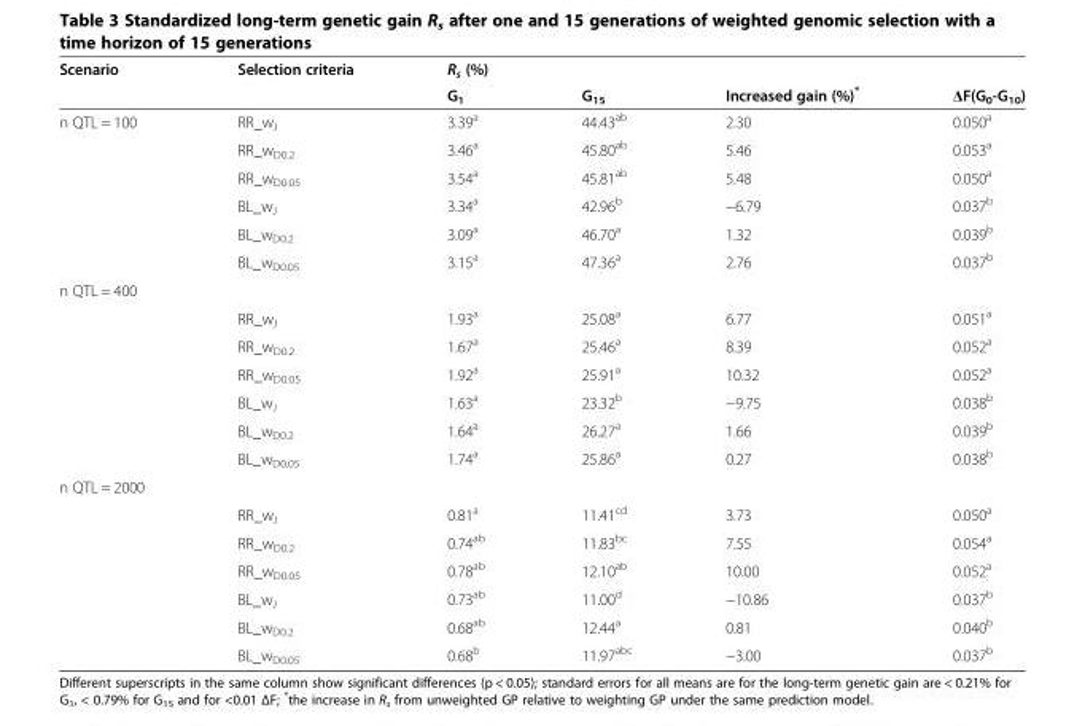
<table><thead><tr><td rowspan="2">Scenario</td><td rowspan="2">Selection criteria</td><td rowspan="2">R<sub>s</sub> (%) G<sub>1</sub></td><td rowspan="2">G<sub>15</sub></td><td rowspan="2">Increased gain (%)*</td><td rowspan="2">ΔF(G<sub>0</sub>-G<sub>10</sub>)</td></tr><tr></tr></thead><tbody><tr><td rowspan="6">n QTL = 100</td><td>RR_w<sub>J</sub></td><td>3.39<sup>a</sup></td><td>44.43<sup>ab</sup></td><td>2.30</td><td>0.050<sup>a</sup></td></tr><tr><td>RR_w<sub>D0.2</sub></td><td>3.46<sup>a</sup></td><td>45.80<sup>ab</sup></td><td>5.46</td><td>0.053<sup>a</sup></td></tr><tr><td>RR_w<sub>D0.05</sub></td><td>3.54<sup>a</sup></td><td>45.81<sup>ab</sup></td><td>5.48</td><td>0.050<sup>a</sup></td></tr><tr><td>BL_w<sub>J</sub></td><td>3.34<sup>a</sup></td><td>42.96<sup>b</sup></td><td>−6.79</td><td>0.037<sup>b</sup></td></tr><tr><td>BL_w<sub>D0.2</sub></td><td>3.09<sup>a</sup></td><td>46.70<sup>a</sup></td><td>1.32</td><td>0.039<sup>b</sup></td></tr><tr><td>BL_w<sub>D0.05</sub></td><td>3.15<sup>a</sup></td><td>47.36<sup>a</sup></td><td>2.76</td><td>0.037<sup>b</sup></td></tr><tr><td colspan="6">n QTL = 400</td></tr><tr><td></td><td>RR_w<sub>J</sub></td><td>1.93<sup>a</sup></td><td>25.08<sup>a</sup></td><td>6.77</td><td>0.051<sup>a</sup></td></tr><tr><td></td><td>RR_w<sub>D0.2</sub></td><td>1.67<sup>a</sup></td><td>25.46<sup>a</sup></td><td>8.39</td><td>0.052<sup>a</sup></td></tr><tr><td></td><td>RR_w<sub>D0.05</sub></td><td>1.92<sup>a</sup></td><td>25.91<sup>a</sup></td><td>10.32</td><td>0.052<sup>a</sup></td></tr><tr><td></td><td>BL_w<sub>J</sub></td><td>1.63<sup>a</sup></td><td>23.32<sup>b</sup></td><td>−9.75</td><td>0.038<sup>b</sup></td></tr><tr><td></td><td>BL_w<sub>D0.2</sub></td><td>1.64<sup>a</sup></td><td>26.27<sup>a</sup></td><td>1.66</td><td>0.039<sup>b</sup></td></tr><tr><td></td><td>BL_w<sub>D0.05</sub></td><td>1.74<sup>a</sup></td><td>25.86<sup>a</sup></td><td>0.27</td><td>0.038<sup>b</sup></td></tr><tr><td colspan="6">n QTL = 2000</td></tr><tr><td></td><td>RR_w<sub>J</sub></td><td>0.81<sup>a</sup></td><td>11.41<sup>cd</sup></td><td>3.73</td><td>0.050<sup>a</sup></td></tr><tr><td></td><td>RR_w<sub>D0.2</sub></td><td>0.74<sup>ab</sup></td><td>11.83<sup>bc</sup></td><td>7.55</td><td>0.054<sup>a</sup></td></tr><tr><td></td><td>RR_w<sub>D0.05</sub></td><td>0.78<sup>ab</sup></td><td>12.10<sup>ab</sup></td><td>10.00</td><td>0.052<sup>a</sup></td></tr><tr><td></td><td>BL_w<sub>J</sub></td><td>0.73<sup>ab</sup></td><td>11.00<sup>d</sup></td><td>−10.86</td><td>0.037<sup>b</sup></td></tr><tr><td></td><td>BL_w<sub>D0.2</sub></td><td>0.68<sup>ab</sup></td><td>12.44<sup>a</sup></td><td>0.81</td><td>0.040<sup>b</sup></td></tr><tr><td></td><td>BL_w<sub>D0.05</sub></td><td>0.68<sup>b</sup></td><td>11.97<sup>abc</sup></td><td>−3.00</td><td>0.037<sup>b</sup></td></tr></tbody></table>